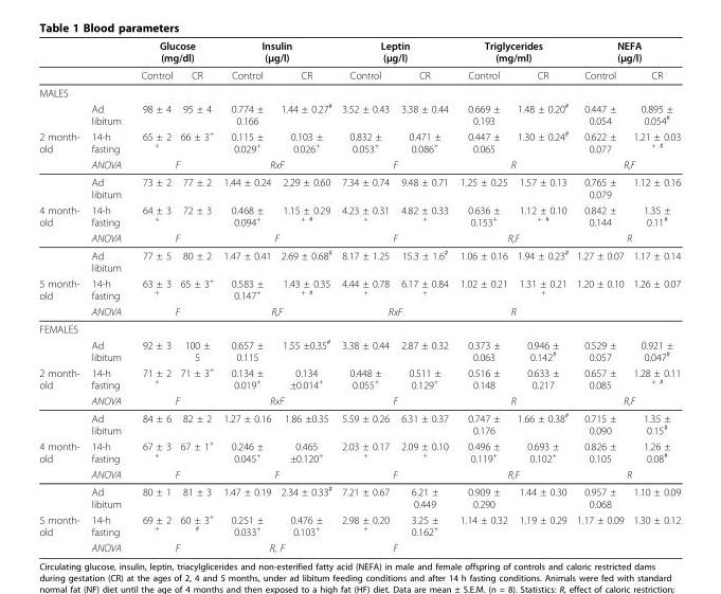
<table><thead><tr><td rowspan="2"></td><td rowspan="2"></td><td colspan="2">Glucose (mg/dl)</td><td colspan="2">Insulin (μg/l)</td><td colspan="2">Leptin (μg/l)</td><td colspan="2">Triglycerides (mg/ml)</td><td colspan="2">NEFA (μg/l)</td></tr><tr><td>Control</td><td>CR</td><td>Control</td><td>CR</td><td>Control</td><td>CR</td><td>Control</td><td>CR</td><td>Control</td><td>CR</td></tr></thead><tbody><tr><td colspan="12">MALES</td></tr><tr><td></td><td>Ad libitum</td><td>98 ± 4</td><td>95 ± 4</td><td>0.774 ± 0.166</td><td>1.44 ± 0.27<sup>#</sup></td><td>3.52 ± 0.43</td><td>3.38 ± 0.44</td><td>0.669 ± 0.193</td><td>1.48 ± 0.20<sup>#</sup></td><td>0.447 ± 0.054</td><td>0.895 ± 0.054<sup>#</sup></td></tr><tr><td rowspan="3">2 month- old</td><td>14-h fasting</td><td>65 ± 2 <sup>+</sup></td><td>66 ± 3<sup>+</sup></td><td>0.115 ± 0.029<sup>+</sup></td><td>0.103 ± 0.026<sup>+</sup></td><td>0.832 ± 0.053<sup>+</sup></td><td>0.471 ± 0.086<sup>+</sup></td><td>0.447 ± 0.065</td><td>1.30 ± 0.24<sup>#</sup></td><td>0.622 ± 0.077</td><td>1.21 ± 0.03 <sup>+ #</sup></td></tr><tr><td>ANOVA</td><td colspan="2">F</td><td colspan="2">RxF</td><td colspan="2">F</td><td colspan="2">R</td><td colspan="2">R,F</td></tr><tr><td>Ad libitum</td><td>73 ± 2</td><td>77 ± 2</td><td>1.44 ± 0.24</td><td>2.29 ± 0.60</td><td>7.34 ± 0.74</td><td>9.48 ± 0.71</td><td>1.25 ± 0.25</td><td>1.57 ± 0.13</td><td>0.765 ± 0.079</td><td>1.12 ± 0.16</td></tr><tr><td rowspan="3">4 month- old</td><td>14-h fasting</td><td>64 ± 3 <sup>+</sup></td><td>72 ± 3</td><td>0.468 ± 0.094<sup>+</sup></td><td>1.15 ± 0.29 <sup>+ #</sup></td><td>4.23 ± 0.31 <sup>+</sup></td><td>4.82 ± 0.33 <sup>+</sup></td><td>0.636 ± 0.153<sup>+</sup></td><td>1.12 ± 0.10 <sup>+ #</sup></td><td>0.842 ± 0.144</td><td>1.35 ± 0.11<sup>#</sup></td></tr><tr><td>ANOVA</td><td colspan="2">F</td><td colspan="2">F</td><td colspan="2">F</td><td colspan="2">R,F</td><td colspan="2">R</td></tr><tr><td>Ad libitum</td><td>77 ± 5</td><td>80 ± 2</td><td>1.47 ± 0.41</td><td>2.69 ± 0.68<sup>#</sup></td><td>8.17 ± 1.25</td><td>15.3 ± 1.6<sup>#</sup></td><td>1.06 ± 0.16</td><td>1.94 ± 0.23<sup>#</sup></td><td>1.27 ± 0.07</td><td>1.17 ± 0.14</td></tr><tr><td rowspan="2">5 month- old</td><td>14-h fasting</td><td>63 ± 3 <sup>+</sup></td><td>65 ± 3<sup>+</sup></td><td>0.583 ± 0.147<sup>+</sup></td><td>1.43 ± 0.35 <sup>+ #</sup></td><td>4.44 ± 0.78 <sup>+</sup></td><td>6.17 ± 0.84 <sup>+</sup></td><td>1.02 ± 0.21</td><td>1.31 ± 0.21 <sup>+</sup></td><td>1.20 ± 0.10</td><td>1.26 ± 0.07</td></tr><tr><td>ANOVA</td><td colspan="2">F</td><td colspan="2">R,F</td><td colspan="2">RxF</td><td colspan="2">R</td><td></td><td></td></tr><tr><td colspan="12">FEMALES</td></tr><tr><td></td><td>Ad libitum</td><td>92 ± 3</td><td>100 ± 5</td><td>0.657 ± 0.115</td><td>1.55 ±0.35<sup>#</sup></td><td>3.38 ± 0.44</td><td>2.87 ± 0.32</td><td>0.373 ± 0.063</td><td>0.946 ± 0.142<sup>#</sup></td><td>0.529 ± 0.057</td><td>0.921 ± 0.047<sup>#</sup></td></tr><tr><td rowspan="3">2 month- old</td><td>14-h fasting</td><td>71 ± 2 <sup>+</sup></td><td>71 ± 3<sup>+</sup></td><td>0.134 ± 0.019<sup>+</sup></td><td>0.134 ±0.014<sup>+</sup></td><td>0.448 ± 0.055<sup>+</sup></td><td>0.511 ± 0.129<sup>+</sup></td><td>0.516 ± 0.148</td><td>0.633 ± 0.217</td><td>0.657 ± 0.085</td><td>1.28 ± 0.11 <sup>+ #</sup></td></tr><tr><td>ANOVA</td><td colspan="2">F</td><td colspan="2">RxF</td><td colspan="2">F</td><td colspan="2">R</td><td colspan="2">R,F</td></tr><tr><td>Ad libitum</td><td>84 ± 6</td><td>82 ± 2</td><td>1.27 ± 0.16</td><td>1.86 ±0.35</td><td>5.59 ± 0.26</td><td>6.31 ± 0.37</td><td>0.747 ± 0.176</td><td>1.66 ± 0.38<sup>#</sup></td><td>0.715 ± 0.090</td><td>1.35 ± 0.15<sup>#</sup></td></tr><tr><td rowspan="3">4 month- old</td><td>14-h fasting</td><td>67 ± 3 <sup>+</sup></td><td>67 ± 1<sup>+</sup></td><td>0.246 ± 0.045<sup>+</sup></td><td>0.465 ±0.120<sup>+</sup></td><td>2.03 ± 0.17 <sup>+</sup></td><td>2.09 ± 0.10 <sup>+</sup></td><td>0.496 ± 0.119<sup>+</sup></td><td>0.693 ± 0.102<sup>+</sup></td><td>0.826 ± 0.105</td><td>1.26 ± 0.08<sup>#</sup></td></tr><tr><td>ANOVA</td><td colspan="2">F</td><td colspan="2">F</td><td colspan="2">F</td><td colspan="2">R,F</td><td colspan="2">R</td></tr><tr><td>Ad libitum</td><td>80 ± 1</td><td>81 ± 3</td><td>1.47 ± 0.19</td><td>2.34 ± 0.33<sup>#</sup></td><td>7.21 ± 0.67</td><td>6.21 ± 0.449</td><td>0.909 ± 0.290</td><td>1.44 ± 0.30</td><td>0.957 ± 0.068</td><td>1.10 ± 0.09</td></tr><tr><td rowspan="2">5 month- old</td><td>14-h fasting</td><td>69 ± 2 <sup>+</sup></td><td>60 ± 3<sup>+ #</sup></td><td>0.251 ± 0.033<sup>+</sup></td><td>0.476 ± 0.103<sup>+</sup></td><td>2.98 ± 0.20 <sup>+</sup></td><td>3.25 ± 0.162<sup>+</sup></td><td>1.14 ± 0.32</td><td>1.19 ± 0.29</td><td>1.17 ± 0.09</td><td>1.30 ± 0.12</td></tr><tr><td>ANOVA</td><td colspan="2">F</td><td colspan="2">R, F</td><td colspan="2">F</td><td></td><td></td><td></td><td></td></tr></tbody></table>